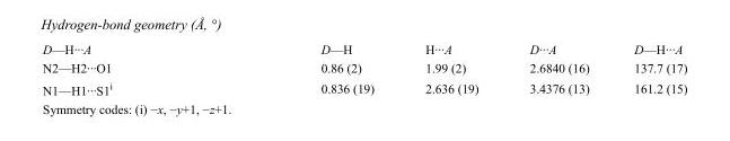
<table><tbody><tr><td>D—H···A</td><td>D—H</td><td>H···A</td><td>D···A</td><td>D—H···A</td></tr><tr><td>N2—H2···O1</td><td>0.86 (2)</td><td>1.99 (2)</td><td>2.6840 (16)</td><td>137.7 (17)</td></tr><tr><td>N1—H1···S1<sup>i</sup></td><td>0.836 (19)</td><td>2.636 (19)</td><td>3.4376 (13)</td><td>161.2 (15)</td></tr></tbody></table>